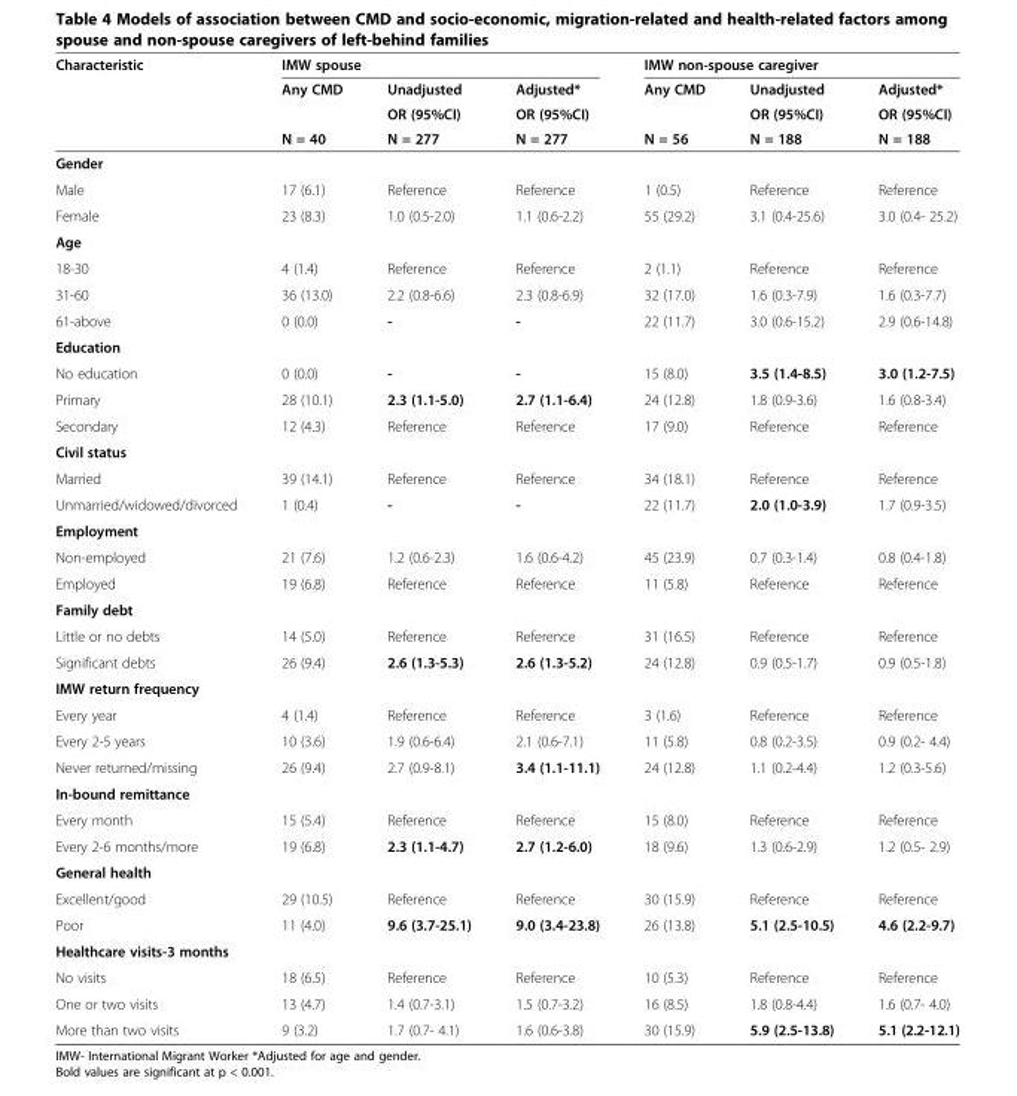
<table><thead><tr><td rowspan="4">Characteristic</td><td colspan="3">IMW spouse</td><td colspan="3">IMW non-spouse caregiver</td></tr><tr><td rowspan="3">Any CMD N = 40</td><td rowspan="3">Unadjusted OR (95%CI) N = 277</td><td rowspan="3">Adjusted* OR (95%CI) N = 277</td><td rowspan="3">Any CMD N = 56</td><td rowspan="3">Unadjusted OR (95%CI) N = 188</td><td rowspan="3">Adjusted* OR (95%CI) N = 188</td></tr><tr></tr><tr></tr></thead><tbody><tr><td colspan="7">Gender</td></tr><tr><td>Male</td><td>17 (6.1)</td><td>Reference</td><td>Reference</td><td>1 (0.5)</td><td>Reference</td><td>Reference</td></tr><tr><td>Female</td><td>23 (8.3)</td><td>1.0 (0.5-2.0)</td><td>1.1 (0.6-2.2)</td><td>55 (29.2)</td><td>3.1 (0.4-25.6)</td><td>3.0 (0.4- 25.2)</td></tr><tr><td colspan="7">Age</td></tr><tr><td>18-30</td><td>4 (1.4)</td><td>Reference</td><td>Reference</td><td>2 (1.1)</td><td>Reference</td><td>Reference</td></tr><tr><td>31-60</td><td>36 (13.0)</td><td>2.2 (0.8-6.6)</td><td>2.3 (0.8-6.9)</td><td>32 (17.0)</td><td>1.6 (0.3-7.9)</td><td>1.6 (0.3-7.7)</td></tr><tr><td>61-above</td><td>0 (0.0)</td><td>-</td><td>-</td><td>22 (11.7)</td><td>3.0 (0.6-15.2)</td><td>2.9 (0.6-14.8)</td></tr><tr><td colspan="7">Education</td></tr><tr><td>No education</td><td>0 (0.0)</td><td>-</td><td>-</td><td>15 (8.0)</td><td>3.5 (1.4-8.5)</td><td>3.0 (1.2-7.5)</td></tr><tr><td>Primary</td><td>28 (10.1)</td><td>2.3 (1.1-5.0)</td><td>2.7 (1.1-6.4)</td><td>24 (12.8)</td><td>1.8 (0.9-3.6)</td><td>1.6 (0.8-3.4)</td></tr><tr><td>Secondary</td><td>12 (4.3)</td><td>Reference</td><td>Reference</td><td>17 (9.0)</td><td>Reference</td><td>Reference</td></tr><tr><td colspan="7">Civil status</td></tr><tr><td>Married</td><td>39 (14.1)</td><td>Reference</td><td>Reference</td><td>34 (18.1)</td><td>Reference</td><td>Reference</td></tr><tr><td>Unmarried/widowed/divorced</td><td>1 (0.4)</td><td>-</td><td>-</td><td>22 (11.7)</td><td>2.0 (1.0-3.9)</td><td>1.7 (0.9-3.5)</td></tr><tr><td colspan="7">Employment</td></tr><tr><td>Non-employed</td><td>21 (7.6)</td><td>1.2 (0.6-2.3)</td><td>1.6 (0.6-4.2)</td><td>45 (23.9)</td><td>0.7 (0.3-1.4)</td><td>0.8 (0.4-1.8)</td></tr><tr><td>Employed</td><td>19 (6.8)</td><td>Reference</td><td>Reference</td><td>11 (5.8)</td><td>Reference</td><td>Reference</td></tr><tr><td colspan="7">Family debt</td></tr><tr><td>Little or no debts</td><td>14 (5.0)</td><td>Reference</td><td>Reference</td><td>31 (16.5)</td><td>Reference</td><td>Reference</td></tr><tr><td>Significant debts</td><td>26 (9.4)</td><td>2.6 (1.3-5.3)</td><td>2.6 (1.3-5.2)</td><td>24 (12.8)</td><td>0.9 (0.5-1.7)</td><td>0.9 (0.5-1.8)</td></tr><tr><td colspan="7">IMW return frequency</td></tr><tr><td>Every year</td><td>4 (1.4)</td><td>Reference</td><td>Reference</td><td>3 (1.6)</td><td>Reference</td><td>Reference</td></tr><tr><td>Every 2-5 years</td><td>10 (3.6)</td><td>1.9 (0.6-6.4)</td><td>2.1 (0.6-7.1)</td><td>11 (5.8)</td><td>0.8 (0.2-3.5)</td><td>0.9 (0.2- 4.4)</td></tr><tr><td>Never returned/missing</td><td>26 (9.4)</td><td>2.7 (0.9-8.1)</td><td>3.4 (1.1-11.1)</td><td>24 (12.8)</td><td>1.1 (0.2-4.4)</td><td>1.2 (0.3-5.6)</td></tr><tr><td colspan="7">In-bound remittance</td></tr><tr><td>Every month</td><td>15 (5.4)</td><td>Reference</td><td>Reference</td><td>15 (8.0)</td><td>Reference</td><td>Reference</td></tr><tr><td>Every 2-6 months/more</td><td>19 (6.8)</td><td>2.3 (1.1-4.7)</td><td>2.7 (1.2-6.0)</td><td>18 (9.6)</td><td>1.3 (0.6-2.9)</td><td>1.2 (0.5- 2.9)</td></tr><tr><td colspan="7">General health</td></tr><tr><td>Excellent/good</td><td>29 (10.5)</td><td>Reference</td><td>Reference</td><td>30 (15.9)</td><td>Reference</td><td>Reference</td></tr><tr><td>Poor</td><td>11 (4.0)</td><td>9.6 (3.7-25.1)</td><td>9.0 (3.4-23.8)</td><td>26 (13.8)</td><td>5.1 (2.5-10.5)</td><td>4.6 (2.2-9.7)</td></tr><tr><td colspan="7">Healthcare visits-3 months</td></tr><tr><td>No visits</td><td>18 (6.5)</td><td>Reference</td><td>Reference</td><td>10 (5.3)</td><td>Reference</td><td>Reference</td></tr><tr><td>One or two visits</td><td>13 (4.7)</td><td>1.4 (0.7-3.1)</td><td>1.5 (0.7-3.2)</td><td>16 (8.5)</td><td>1.8 (0.8-4.4)</td><td>1.6 (0.7- 4.0)</td></tr><tr><td>More than two visits</td><td>9 (3.2)</td><td>1.7 (0.7- 4.1)</td><td>1.6 (0.6-3.8)</td><td>30 (15.9)</td><td>5.9 (2.5-13.8)</td><td>5.1 (2.2-12.1)</td></tr></tbody></table>